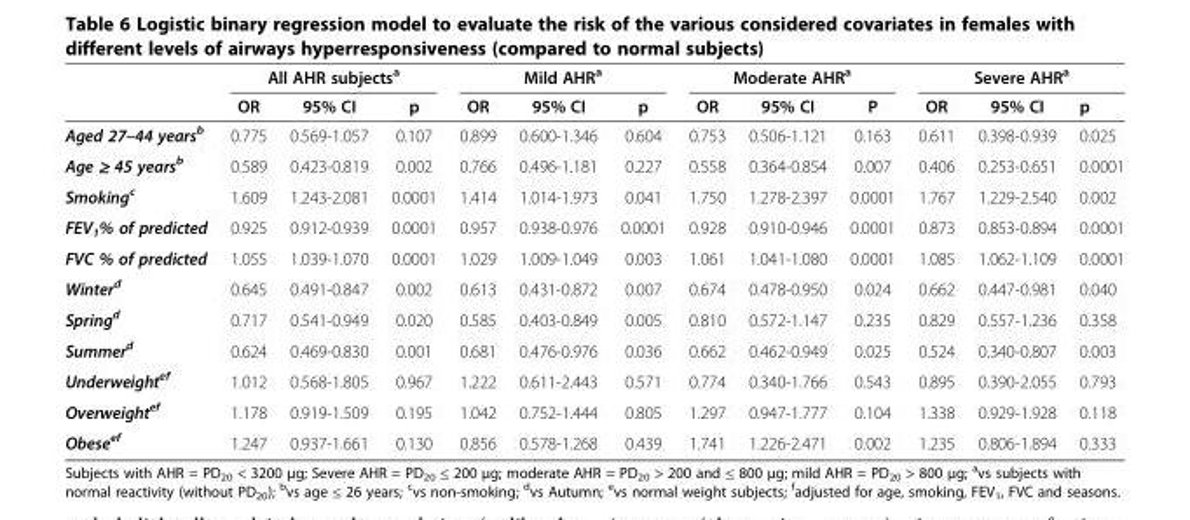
<table><thead><tr><td rowspan="2"></td><td colspan="3">All AHR subjects<sup>a</sup></td><td colspan="3">Mild AHR<sup>a</sup></td><td colspan="3">Moderate AHR<sup>a</sup></td><td colspan="3">Severe AHR<sup>a</sup></td></tr><tr><td>OR</td><td>95% CI</td><td>p</td><td>OR</td><td>95% CI</td><td>p</td><td>OR</td><td>95% CI</td><td>P</td><td>OR</td><td>95% CI</td><td>p</td></tr></thead><tbody><tr><td>Aged 27–44 years<sup>b</sup></td><td>0.775</td><td>0.569-1.057</td><td>0.107</td><td>0.899</td><td>0.600-1.346</td><td>0.604</td><td>0.753</td><td>0.506-1.121</td><td>0.163</td><td>0.611</td><td>0.398-0.939</td><td>0.025</td></tr><tr><td>Age ≥ 45 years<sup>b</sup></td><td>0.589</td><td>0.423-0.819</td><td>0.002</td><td>0.766</td><td>0.496-1.181</td><td>0.227</td><td>0.558</td><td>0.364-0.854</td><td>0.007</td><td>0.406</td><td>0.253-0.651</td><td>0.0001</td></tr><tr><td>Smoking<sup>c</sup></td><td>1.609</td><td>1.243-2.081</td><td>0.0001</td><td>1.414</td><td>1.014-1.973</td><td>0.041</td><td>1.750</td><td>1.278-2.397</td><td>0.0001</td><td>1.767</td><td>1.229-2.540</td><td>0.002</td></tr><tr><td>FEV<sub>1</sub>% of predicted</td><td>0.925</td><td>0.912-0.939</td><td>0.0001</td><td>0.957</td><td>0.938-0.976</td><td>0.0001</td><td>0.928</td><td>0.910-0.946</td><td>0.0001</td><td>0.873</td><td>0.853-0.894</td><td>0.0001</td></tr><tr><td>FVC % of predicted</td><td>1.055</td><td>1.039-1.070</td><td>0.0001</td><td>1.029</td><td>1.009-1.049</td><td>0.003</td><td>1.061</td><td>1.041-1.080</td><td>0.0001</td><td>1.085</td><td>1.062-1.109</td><td>0.0001</td></tr><tr><td>Winter<sup>d</sup></td><td>0.645</td><td>0.491-0.847</td><td>0.002</td><td>0.613</td><td>0.431-0.872</td><td>0.007</td><td>0.674</td><td>0.478-0.950</td><td>0.024</td><td>0.662</td><td>0.447-0.981</td><td>0.040</td></tr><tr><td>Spring<sup>d</sup></td><td>0.717</td><td>0.541-0.949</td><td>0.020</td><td>0.585</td><td>0.403-0.849</td><td>0.005</td><td>0.810</td><td>0.572-1.147</td><td>0.235</td><td>0.829</td><td>0.557-1.236</td><td>0.358</td></tr><tr><td>Summer<sup>d</sup></td><td>0.624</td><td>0.469-0.830</td><td>0.001</td><td>0.681</td><td>0.476-0.976</td><td>0.036</td><td>0.662</td><td>0.462-0.949</td><td>0.025</td><td>0.524</td><td>0.340-0.807</td><td>0.003</td></tr><tr><td>Underweight<sup>ef</sup></td><td>1.012</td><td>0.568-1.805</td><td>0.967</td><td>1.222</td><td>0.611-2.443</td><td>0.571</td><td>0.774</td><td>0.340-1.766</td><td>0.543</td><td>0.895</td><td>0.390-2.055</td><td>0.793</td></tr><tr><td>Overweight<sup>ef</sup></td><td>1.178</td><td>0.919-1.509</td><td>0.195</td><td>1.042</td><td>0.752-1.444</td><td>0.805</td><td>1.297</td><td>0.947-1.777</td><td>0.104</td><td>1.338</td><td>0.929-1.928</td><td>0.118</td></tr><tr><td>Obese<sup>ef</sup></td><td>1.247</td><td>0.937-1.661</td><td>0.130</td><td>0.856</td><td>0.578-1.268</td><td>0.439</td><td>1.741</td><td>1.226-2.471</td><td>0.002</td><td>1.235</td><td>0.806-1.894</td><td>0.333</td></tr></tbody></table>